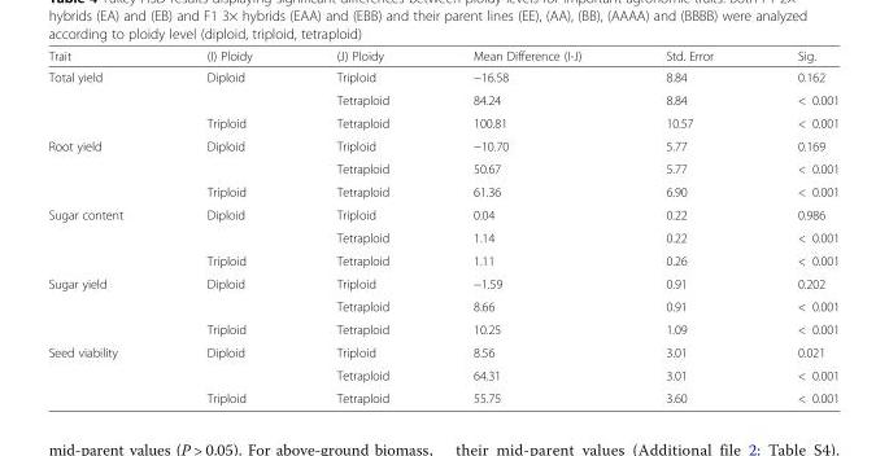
<table><thead><tr><td>Trait</td><td>(I) Ploidy</td><td>(J) Ploidy</td><td>Mean Difference (I-J)</td><td>Std. Error</td><td>Sig.</td></tr></thead><tbody><tr><td rowspan="3">Total yield</td><td rowspan="2">Diploid</td><td>Triploid</td><td>−16.58</td><td>8.84</td><td>0.162</td></tr><tr><td>Tetraploid</td><td>84.24</td><td>8.84</td><td>&lt; 0.001</td></tr><tr><td>Triploid</td><td>Tetraploid</td><td>100.81</td><td>10.57</td><td>&lt; 0.001</td></tr><tr><td rowspan="3">Root yield</td><td rowspan="2">Diploid</td><td>Triploid</td><td>−10.70</td><td>5.77</td><td>0.169</td></tr><tr><td>Tetraploid</td><td>50.67</td><td>5.77</td><td>&lt; 0.001</td></tr><tr><td>Triploid</td><td>Tetraploid</td><td>61.36</td><td>6.90</td><td>&lt; 0.001</td></tr><tr><td rowspan="3">Sugar content</td><td rowspan="2">Diploid</td><td>Triploid</td><td>0.04</td><td>0.22</td><td>0.986</td></tr><tr><td>Tetraploid</td><td>1.14</td><td>0.22</td><td>&lt; 0.001</td></tr><tr><td>Triploid</td><td>Tetraploid</td><td>1.11</td><td>0.26</td><td>&lt; 0.001</td></tr><tr><td rowspan="3">Sugar yield</td><td rowspan="2">Diploid</td><td>Triploid</td><td>−1.59</td><td>0.91</td><td>0.202</td></tr><tr><td>Tetraploid</td><td>8.66</td><td>0.91</td><td>&lt; 0.001</td></tr><tr><td>Triploid</td><td>Tetraploid</td><td>10.25</td><td>1.09</td><td>&lt; 0.001</td></tr><tr><td rowspan="3">Seed viability</td><td rowspan="2">Diploid</td><td>Triploid</td><td>8.56</td><td>3.01</td><td>0.021</td></tr><tr><td>Tetraploid</td><td>64.31</td><td>3.01</td><td>&lt; 0.001</td></tr><tr><td>Triploid</td><td>Tetraploid</td><td>55.75</td><td>3.60</td><td>&lt; 0.001</td></tr></tbody></table>